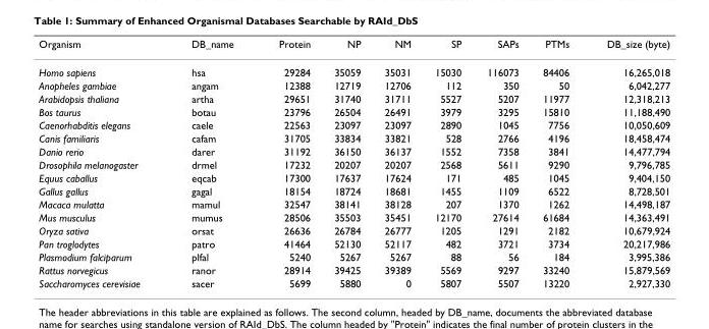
<table><thead><tr><td>Organism</td><td>DB_name</td><td>Protein</td><td>NP</td><td>NM</td><td>SP</td><td>SAPs</td><td>PTMs</td><td>DB_size (byte)</td></tr></thead><tbody><tr><td>Homo sapiens</td><td>hsa</td><td>29284</td><td>35059</td><td>35031</td><td>15030</td><td>116073</td><td>84406</td><td>16,265,018</td></tr><tr><td>Anopheles gambiae</td><td>angam</td><td>12388</td><td>12719</td><td>12706</td><td>112</td><td>350</td><td>50</td><td>6,042,277</td></tr><tr><td>Arabidopsis thaliana</td><td>artha</td><td>29651</td><td>31740</td><td>31711</td><td>5527</td><td>5207</td><td>11977</td><td>12,318,213</td></tr><tr><td>Bos taurus</td><td>botau</td><td>23796</td><td>26504</td><td>26491</td><td>3979</td><td>3295</td><td>15810</td><td>11,188,490</td></tr><tr><td>Caenorhabditis elegans</td><td>caele</td><td>22563</td><td>23097</td><td>23097</td><td>2890</td><td>1045</td><td>7756</td><td>10,050,609</td></tr><tr><td>Canis familiaris</td><td>cafam</td><td>31705</td><td>33834</td><td>33821</td><td>528</td><td>2766</td><td>4196</td><td>18,458,474</td></tr><tr><td>Danio rerio</td><td>darer</td><td>31192</td><td>36150</td><td>36137</td><td>1552</td><td>7358</td><td>3841</td><td>14,477,794</td></tr><tr><td>Drosophila melanogaster</td><td>drmel</td><td>17232</td><td>20207</td><td>20207</td><td>2568</td><td>5611</td><td>9290</td><td>9,796,785</td></tr><tr><td>Equus caballus</td><td>eqcab</td><td>17300</td><td>17637</td><td>17624</td><td>171</td><td>485</td><td>1045</td><td>9,404,150</td></tr><tr><td>Gallus gallus</td><td>gagal</td><td>18154</td><td>18724</td><td>18681</td><td>1455</td><td>1109</td><td>6522</td><td>8,728,501</td></tr><tr><td>Macaca mulatta</td><td>mamul</td><td>32547</td><td>38141</td><td>38128</td><td>207</td><td>1370</td><td>1262</td><td>14,498,187</td></tr><tr><td>Mus musculus</td><td>mumus</td><td>28506</td><td>35503</td><td>35451</td><td>12170</td><td>27614</td><td>61684</td><td>14,363,491</td></tr><tr><td>Oryza sativa</td><td>orsat</td><td>26636</td><td>26784</td><td>26777</td><td>1205</td><td>1291</td><td>2182</td><td>10,679,924</td></tr><tr><td>Pan troglodytes</td><td>patro</td><td>41464</td><td>52130</td><td>52117</td><td>482</td><td>3721</td><td>3734</td><td>20,217,986</td></tr><tr><td>Plasmodium falciparum</td><td>plfal</td><td>5240</td><td>5267</td><td>5267</td><td>88</td><td>56</td><td>184</td><td>3,995,386</td></tr><tr><td>Rattus norvegicus</td><td>ranor</td><td>28914</td><td>39425</td><td>39389</td><td>5569</td><td>9297</td><td>33240</td><td>15,879,569</td></tr><tr><td>Saccharomyces cerevisiae</td><td>sacer</td><td>5699</td><td>5880</td><td>0</td><td>5807</td><td>5507</td><td>13220</td><td>2,927,330</td></tr></tbody></table>